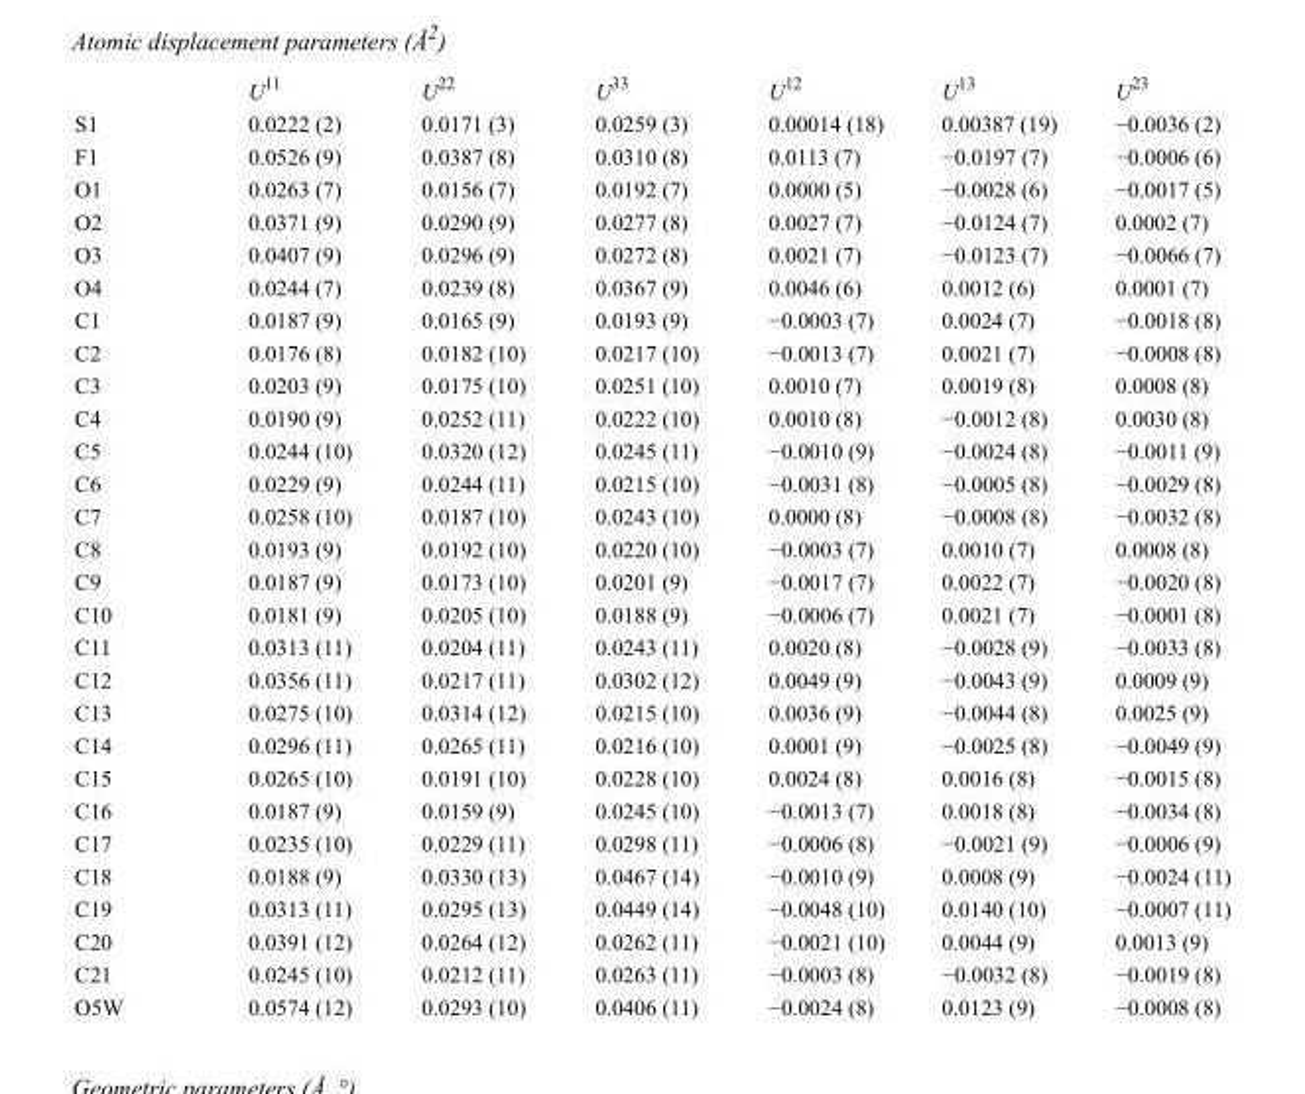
<table><thead><tr><td></td><td>U<sup>11</sup></td><td>U<sup>22</sup></td><td>U<sup>33</sup></td><td>U<sup>12</sup></td><td>U<sup>13</sup></td><td>U<sup>23</sup></td></tr></thead><tbody><tr><td>S1</td><td>0.0222 (2)</td><td>0.0171 (3)</td><td>0.0259 (3)</td><td>0.00014 (18)</td><td>0.00387 (19)</td><td>−0.0036 (2)</td></tr><tr><td>F1</td><td>0.0526 (9)</td><td>0.0387 (8)</td><td>0.0310 (8)</td><td>0.0113 (7)</td><td>−0.0197 (7)</td><td>−0.0006 (6)</td></tr><tr><td>O1</td><td>0.0263 (7)</td><td>0.0156 (7)</td><td>0.0192 (7)</td><td>0.0000 (5)</td><td>−0.0028 (6)</td><td>−0.0017 (5)</td></tr><tr><td>O2</td><td>0.0371 (9)</td><td>0.0290 (9)</td><td>0.0277 (8)</td><td>0.0027 (7)</td><td>−0.0124 (7)</td><td>0.0002 (7)</td></tr><tr><td>O3</td><td>0.0407 (9)</td><td>0.0296 (9)</td><td>0.0272 (8)</td><td>0.0021 (7)</td><td>−0.0123 (7)</td><td>−0.0066 (7)</td></tr><tr><td>O4</td><td>0.0244 (7)</td><td>0.0239 (8)</td><td>0.0367 (9)</td><td>0.0046 (6)</td><td>0.0012 (6)</td><td>0.0001 (7)</td></tr><tr><td>C1</td><td>0.0187 (9)</td><td>0.0165 (9)</td><td>0.0193 (9)</td><td>−0.0003 (7)</td><td>0.0024 (7)</td><td>−0.0018 (8)</td></tr><tr><td>C2</td><td>0.0176 (8)</td><td>0.0182 (10)</td><td>0.0217 (10)</td><td>−0.0013 (7)</td><td>0.0021 (7)</td><td>−0.0008 (8)</td></tr><tr><td>C3</td><td>0.0203 (9)</td><td>0.0175 (10)</td><td>0.0251 (10)</td><td>0.0010 (7)</td><td>0.0019 (8)</td><td>0.0008 (8)</td></tr><tr><td>C4</td><td>0.0190 (9)</td><td>0.0252 (11)</td><td>0.0222 (10)</td><td>0.0010 (8)</td><td>−0.0012 (8)</td><td>0.0030 (8)</td></tr><tr><td>C5</td><td>0.0244 (10)</td><td>0.0320 (12)</td><td>0.0245 (11)</td><td>−0.0010 (9)</td><td>−0.0024 (8)</td><td>−0.0011 (9)</td></tr><tr><td>C6</td><td>0.0229 (9)</td><td>0.0244 (11)</td><td>0.0215 (10)</td><td>−0.0031 (8)</td><td>−0.0005 (8)</td><td>−0.0029 (8)</td></tr><tr><td>C7</td><td>0.0258 (10)</td><td>0.0187 (10)</td><td>0.0243 (10)</td><td>0.0000 (8)</td><td>−0.0008 (8)</td><td>−0.0032 (8)</td></tr><tr><td>C8</td><td>0.0193 (9)</td><td>0.0192 (10)</td><td>0.0220 (10)</td><td>−0.0003 (7)</td><td>0.0010 (7)</td><td>0.0008 (8)</td></tr><tr><td>C9</td><td>0.0187 (9)</td><td>0.0173 (10)</td><td>0.0201 (9)</td><td>−0.0017 (7)</td><td>0.0022 (7)</td><td>−0.0020 (8)</td></tr><tr><td>C10</td><td>0.0181 (9)</td><td>0.0205 (10)</td><td>0.0188 (9)</td><td>−0.0006 (7)</td><td>0.0021 (7)</td><td>−0.0001 (8)</td></tr><tr><td>C11</td><td>0.0313 (11)</td><td>0.0204 (11)</td><td>0.0243 (11)</td><td>0.0020 (8)</td><td>−0.0028 (9)</td><td>−0.0033 (8)</td></tr><tr><td>C12</td><td>0.0356 (11)</td><td>0.0217 (11)</td><td>0.0302 (12)</td><td>0.0049 (9)</td><td>−0.0043 (9)</td><td>0.0009 (9)</td></tr><tr><td>C13</td><td>0.0275 (10)</td><td>0.0314 (12)</td><td>0.0215 (10)</td><td>0.0036 (9)</td><td>−0.0044 (8)</td><td>0.0025 (9)</td></tr><tr><td>C14</td><td>0.0296 (11)</td><td>0.0265 (11)</td><td>0.0216 (10)</td><td>0.0001 (9)</td><td>−0.0025 (8)</td><td>−0.0049 (9)</td></tr><tr><td>C15</td><td>0.0265 (10)</td><td>0.0191 (10)</td><td>0.0228 (10)</td><td>0.0024 (8)</td><td>0.0016 (8)</td><td>−0.0015 (8)</td></tr><tr><td>C16</td><td>0.0187 (9)</td><td>0.0159 (9)</td><td>0.0245 (10)</td><td>−0.0013 (7)</td><td>0.0018 (8)</td><td>−0.0034 (8)</td></tr><tr><td>C17</td><td>0.0235 (10)</td><td>0.0229 (11)</td><td>0.0298 (11)</td><td>−0.0006 (8)</td><td>−0.0021 (9)</td><td>−0.0006 (9)</td></tr><tr><td>C18</td><td>0.0188 (9)</td><td>0.0330 (13)</td><td>0.0467 (14)</td><td>−0.0010 (9)</td><td>0.0008 (9)</td><td>−0.0024 (11)</td></tr><tr><td>C19</td><td>0.0313 (11)</td><td>0.0295 (13)</td><td>0.0449 (14)</td><td>−0.0048 (10)</td><td>0.0140 (10)</td><td>−0.0007 (11)</td></tr><tr><td>C20</td><td>0.0391 (12)</td><td>0.0264 (12)</td><td>0.0262 (11)</td><td>−0.0021 (10)</td><td>0.0044 (9)</td><td>0.0013 (9)</td></tr><tr><td>C21</td><td>0.0245 (10)</td><td>0.0212 (11)</td><td>0.0263 (11)</td><td>−0.0003 (8)</td><td>−0.0032 (8)</td><td>−0.0019 (8)</td></tr><tr><td>O5W</td><td>0.0574 (12)</td><td>0.0293 (10)</td><td>0.0406 (11)</td><td>−0.0024 (8)</td><td>0.0123 (9)</td><td>−0.0008 (8)</td></tr></tbody></table>